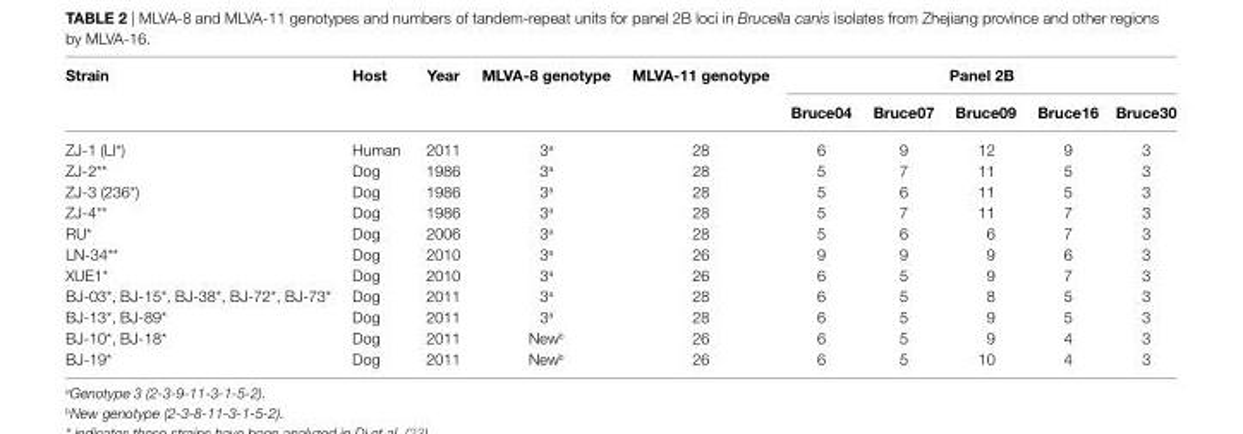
<table><thead><tr><td rowspan="2">strain</td><td rowspan="2">host</td><td rowspan="2">Year</td><td rowspan="2">MlVa-8 genotype</td><td rowspan="2">MlVa-11 genotype</td><td colspan="5">Panel 2B</td></tr><tr><td>Bruce04</td><td>Bruce07</td><td>Bruce09</td><td>Bruce16</td><td>Bruce30</td></tr></thead><tbody><tr><td>ZJ-1 (LI*)</td><td>Human</td><td>2011</td><td>3<sup>a</sup></td><td>28</td><td>6</td><td>9</td><td>12</td><td>9</td><td>3</td></tr><tr><td>ZJ-2**</td><td>Dog</td><td>1986</td><td>3<sup>a</sup></td><td>28</td><td>5</td><td>7</td><td>11</td><td>5</td><td>3</td></tr><tr><td>ZJ-3 (236*)</td><td>Dog</td><td>1986</td><td>3<sup>a</sup></td><td>28</td><td>5</td><td>6</td><td>11</td><td>5</td><td>3</td></tr><tr><td>ZJ-4**</td><td>Dog</td><td>1986</td><td>3<sup>a</sup></td><td>28</td><td>5</td><td>7</td><td>11</td><td>7</td><td>3</td></tr><tr><td>RU*</td><td>Dog</td><td>2006</td><td>3<sup>a</sup></td><td>28</td><td>5</td><td>6</td><td>6</td><td>7</td><td>3</td></tr><tr><td>LN-34**</td><td>Dog</td><td>2010</td><td>3<sup>a</sup></td><td>26</td><td>9</td><td>9</td><td>9</td><td>6</td><td>3</td></tr><tr><td>XUE1*</td><td>Dog</td><td>2010</td><td>3<sup>a</sup></td><td>26</td><td>6</td><td>5</td><td>9</td><td>7</td><td>3</td></tr><tr><td>BJ-03*, BJ-15*, BJ-38*, BJ-72*, BJ-73*</td><td>Dog</td><td>2011</td><td>3<sup>a</sup></td><td>28</td><td>6</td><td>5</td><td>8</td><td>5</td><td>3</td></tr><tr><td>BJ-13*, BJ-89*</td><td>Dog</td><td>2011</td><td>3<sup>a</sup></td><td>28</td><td>6</td><td>5</td><td>9</td><td>5</td><td>3</td></tr><tr><td>BJ-10*, BJ-18*</td><td>Dog</td><td>2011</td><td>New<sup>b</sup></td><td>26</td><td>6</td><td>5</td><td>9</td><td>4</td><td>3</td></tr><tr><td>BJ-19*</td><td>Dog</td><td>2011</td><td>New<sup>b</sup></td><td>26</td><td>6</td><td>5</td><td>10</td><td>4</td><td>3</td></tr></tbody></table>